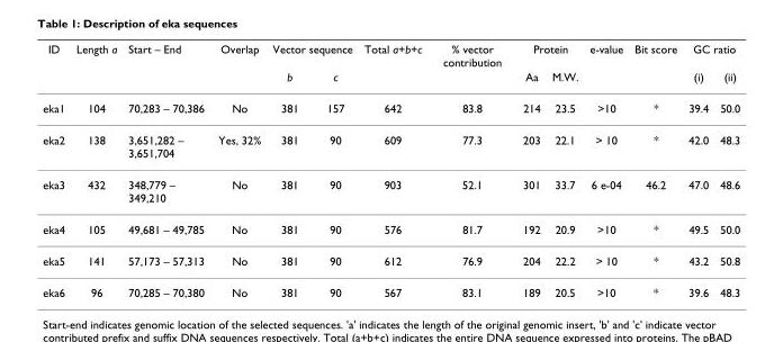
<table><thead><tr><td rowspan="2">ID</td><td rowspan="2">Length a</td><td rowspan="2">Start – End</td><td rowspan="2">Overlap</td><td colspan="2">Vector sequence</td><td rowspan="2">Total a+b+c</td><td rowspan="2">% vector contribution</td><td colspan="2">Protein</td><td rowspan="2">e-value</td><td rowspan="2">Bit score</td><td colspan="2">GC ratio</td></tr><tr><td>b</td><td>c</td><td>Aa</td><td>M.W.</td><td>(i)</td><td>(ii)</td></tr></thead><tbody><tr><td>eka1</td><td>104</td><td>70,283 – 70,386</td><td>No</td><td>381</td><td>157</td><td>642</td><td>83.8</td><td>214</td><td>23.5</td><td>&gt;10</td><td>*</td><td>39.4</td><td>50.0</td></tr><tr><td>eka2</td><td>138</td><td>3,651,282 – 3,651,704</td><td>Yes, 32%</td><td>381</td><td>90</td><td>609</td><td>77.3</td><td>203</td><td>22.1</td><td>&gt; 10</td><td>*</td><td>42.0</td><td>48.3</td></tr><tr><td>eka3</td><td>432</td><td>348,779 – 349,210</td><td>No</td><td>381</td><td>90</td><td>903</td><td>52.1</td><td>301</td><td>33.7</td><td>6 e-04</td><td>46.2</td><td>47.0</td><td>48.6</td></tr><tr><td>eka4</td><td>105</td><td>49,681 – 49,785</td><td>No</td><td>381</td><td>90</td><td>576</td><td>81.7</td><td>192</td><td>20.9</td><td>&gt;10</td><td>*</td><td>49.5</td><td>50.0</td></tr><tr><td>eka5</td><td>141</td><td>57,173 – 57,313</td><td>No</td><td>381</td><td>90</td><td>612</td><td>76.9</td><td>204</td><td>22.2</td><td>&gt; 10</td><td>*</td><td>43.2</td><td>50.8</td></tr><tr><td>eka6</td><td>96</td><td>70,285 – 70,380</td><td>No</td><td>381</td><td>90</td><td>567</td><td>83.1</td><td>189</td><td>20.5</td><td>&gt;10</td><td>*</td><td>39.6</td><td>48.3</td></tr></tbody></table>